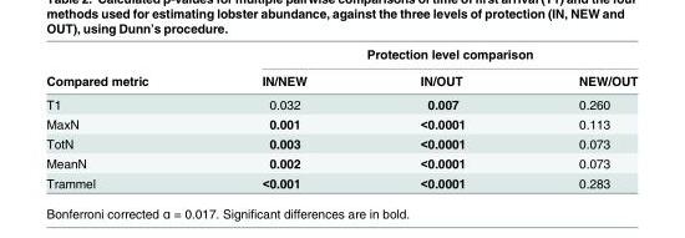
<table><thead><tr><td rowspan="2">Compared metric</td><td colspan="3">Protection level comparison</td></tr><tr><td>IN/NEW</td><td>IN/OUT</td><td>NEW/OUT</td></tr></thead><tbody><tr><td>T1</td><td>0.032</td><td>0.007</td><td>0.260</td></tr><tr><td>MaxN</td><td>0.001</td><td>&lt;0.0001</td><td>0.113</td></tr><tr><td>TotN</td><td>0.003</td><td>&lt;0.0001</td><td>0.073</td></tr><tr><td>MeanN</td><td>0.002</td><td>&lt;0.0001</td><td>0.073</td></tr><tr><td>Trammel</td><td>&lt;0.001</td><td>&lt;0.0001</td><td>0.283</td></tr></tbody></table>